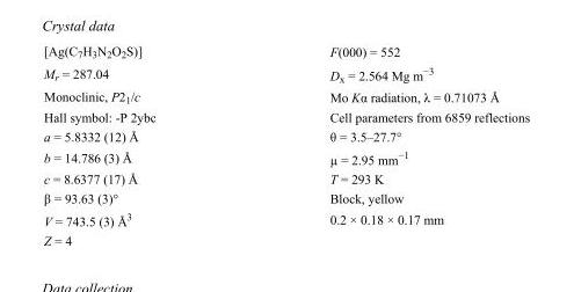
<table><tbody><tr><td>[Ag(C<sub>7</sub>H<sub>3</sub>N<sub>2</sub>O<sub>2</sub>S)]</td><td>F(000) = 552</td></tr><tr><td>M<sub>r</sub> = 287.04</td><td>D<sub>x</sub> = 2.564 Mg m<sup>−3</sup></td></tr><tr><td>Monoclinic, P2<sub>1</sub>/c</td><td>Mo Kα radiation, λ = 0.71073 Å</td></tr><tr><td>Hall symbol: -P 2ybc</td><td>Cell parameters from 6859 reflections</td></tr><tr><td>a = 5.8332 (12) Å</td><td>θ = 3.5–27.7°</td></tr><tr><td>b = 14.786 (3) Å</td><td>µ = 2.95 mm<sup>−1</sup></td></tr><tr><td>c = 8.6377 (17) Å</td><td>T = 293 K</td></tr><tr><td>β = 93.63 (3)°</td><td>Block, yellow</td></tr><tr><td>V = 743.5 (3) Å<sup>3</sup></td><td>0.2 × 0.18 × 0.17 mm</td></tr><tr><td>Z = 4</td><td></td></tr></tbody></table>